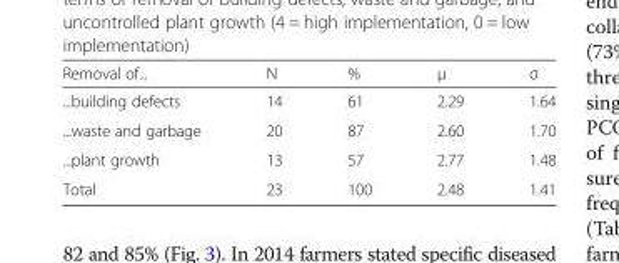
<table><thead><tr><td>Removal of...</td><td>N</td><td>%</td><td>μ</td><td>σ</td></tr></thead><tbody><tr><td>...building defects</td><td>14</td><td>61</td><td>2.29</td><td>1.64</td></tr><tr><td>...waste and garbage</td><td>20</td><td>87</td><td>2.60</td><td>1.70</td></tr><tr><td>...plant growth</td><td>13</td><td>57</td><td>2.77</td><td>1.48</td></tr><tr><td>Total</td><td>23</td><td>100</td><td>2.48</td><td>1.41</td></tr></tbody></table>